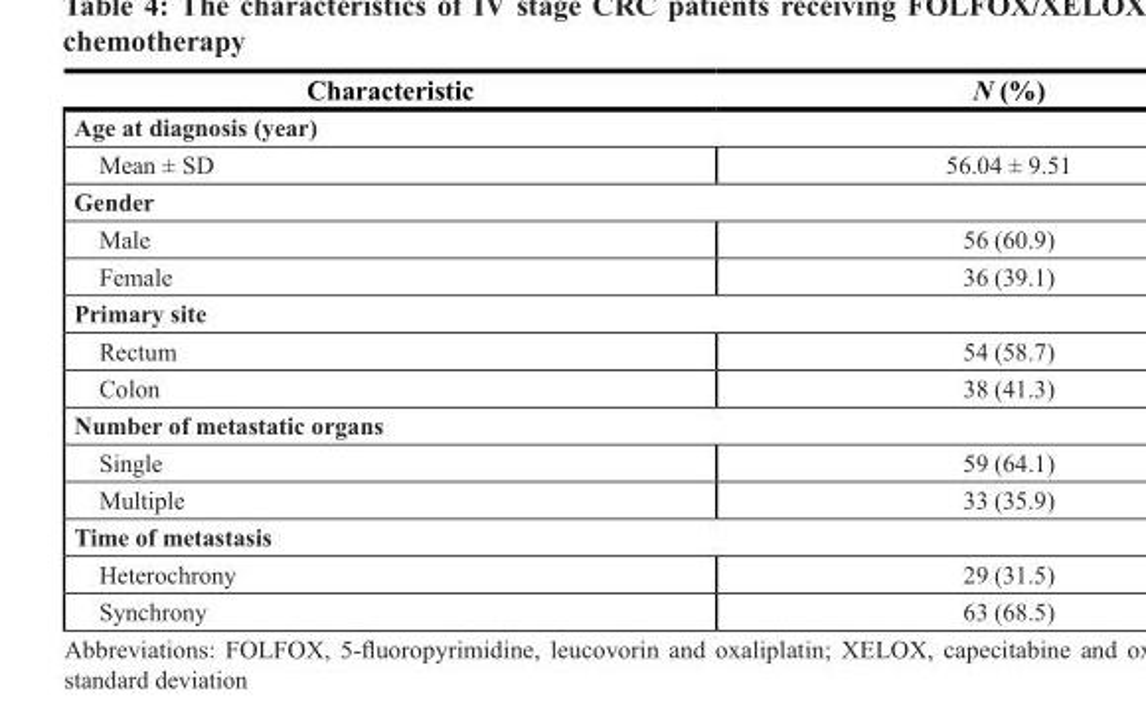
<table><thead><tr><td>Characteristic</td><td>N (%)</td></tr></thead><tbody><tr><td colspan="2">Age at diagnosis (year)</td></tr><tr><td>Mean ± SD</td><td>56.04 ± 9.51</td></tr><tr><td colspan="2">Gender</td></tr><tr><td>Male</td><td>56 (60.9)</td></tr><tr><td>Female</td><td>36 (39.1)</td></tr><tr><td colspan="2">Primary site</td></tr><tr><td>Rectum</td><td>54 (58.7)</td></tr><tr><td>Colon</td><td>38 (41.3)</td></tr><tr><td colspan="2">Number of metastatic organs</td></tr><tr><td>Single</td><td>59 (64.1)</td></tr><tr><td>Multiple</td><td>33 (35.9)</td></tr><tr><td colspan="2">Time of metastasis</td></tr><tr><td>Heterochrony</td><td>29 (31.5)</td></tr><tr><td>Synchrony</td><td>63 (68.5)</td></tr></tbody></table>